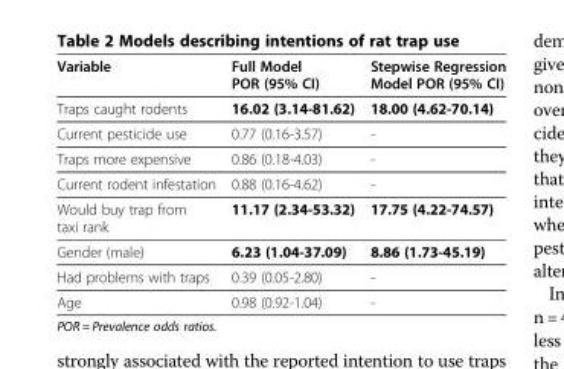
<table><thead><tr><td>Variable</td><td>Full Model POR (95% CI)</td><td>Stepwise Regression Model POR (95% CI)</td></tr></thead><tbody><tr><td>Traps caught rodents</td><td>16.02 (3.14-81.62)</td><td>18.00 (4.62-70.14)</td></tr><tr><td>Current pesticide use</td><td>0.77 (0.16-3.57)</td><td>-</td></tr><tr><td>Traps more expensive</td><td>0.86 (0.18-4.03)</td><td>-</td></tr><tr><td>Current rodent infestation</td><td>0.88 (0.16-4.62)</td><td>-</td></tr><tr><td>Would buy trap from taxi rank</td><td>11.17 (2.34-53.32)</td><td>17.75 (4.22-74.57)</td></tr><tr><td>Gender (male)</td><td>6.23 (1.04-37.09)</td><td>8.86 (1.73-45.19)</td></tr><tr><td>Had problems with traps</td><td>0.39 (0.05-2.80)</td><td>-</td></tr><tr><td>Age</td><td>0.98 (0.92-1.04)</td><td>-</td></tr></tbody></table>